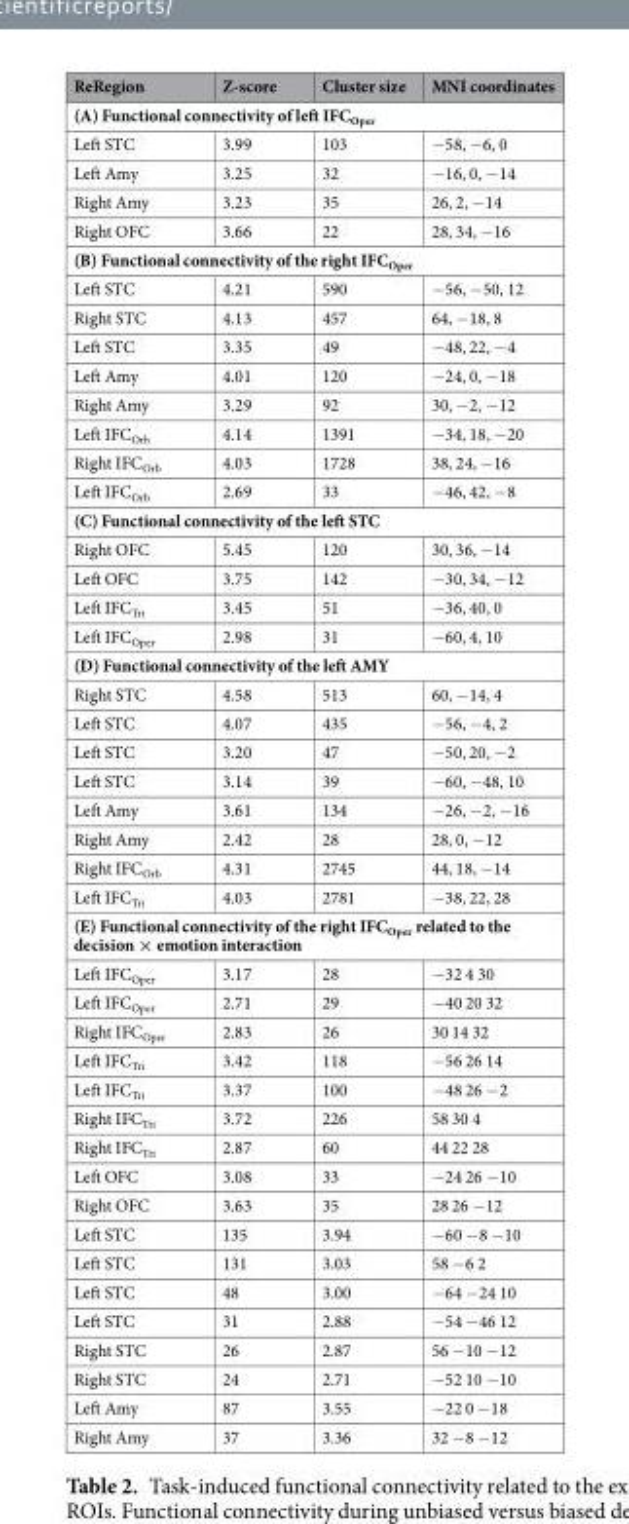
<table><thead><tr><td>ReRegion</td><td>Z-score</td><td>Cluster size</td><td>MNI coordinates</td></tr></thead><tbody><tr><td colspan="4">(A) Functional connectivity of left IFC<sub>Oper</sub></td></tr><tr><td>Left STC</td><td>3.99</td><td>103</td><td>−58, −6, 0</td></tr><tr><td>Left Amy</td><td>3.25</td><td>32</td><td>−16, 0, −14</td></tr><tr><td>Right Amy</td><td>3.23</td><td>35</td><td>26, 2, −14</td></tr><tr><td>Right OFC</td><td>3.66</td><td>22</td><td>28, 34, −16</td></tr><tr><td colspan="4">(B) Functional connectivity of the right IFC<sub>Oper</sub></td></tr><tr><td>Left STC</td><td>4.21</td><td>590</td><td>−56, −50, 12</td></tr><tr><td>Right STC</td><td>4.13</td><td>457</td><td>64, −18, 8</td></tr><tr><td>Left STC</td><td>3.35</td><td>49</td><td>−48, 22, −4</td></tr><tr><td>Left Amy</td><td>4.01</td><td>120</td><td>−24, 0, −18</td></tr><tr><td>Right Amy</td><td>3.29</td><td>92</td><td>30, −2, −12</td></tr><tr><td>Left IFC<sub>Orb</sub></td><td>4.14</td><td>1391</td><td>−34, 18, −20</td></tr><tr><td>Right IFC<sub>Orb</sub></td><td>4.03</td><td>1728</td><td>38, 24, −16</td></tr><tr><td>Left IFC<sub>Orb</sub></td><td>2.69</td><td>33</td><td>−46, 42, −8</td></tr><tr><td colspan="4">(C) Functional connectivity of the left STC</td></tr><tr><td>Right OFC</td><td>5.45</td><td>120</td><td>30, 36, −14</td></tr><tr><td>Left OFC</td><td>3.75</td><td>142</td><td>−30, 34, −12</td></tr><tr><td>Left IFC<sub>Tri</sub></td><td>3.45</td><td>51</td><td>−36, 40, 0</td></tr><tr><td>Left IFC<sub>Oper</sub></td><td>2.98</td><td>31</td><td>−60, 4, 10</td></tr><tr><td colspan="4">(D) Functional connectivity of the left AMY</td></tr><tr><td>Right STC</td><td>4.58</td><td>513</td><td>60, −14, 4</td></tr><tr><td>Left STC</td><td>4.07</td><td>435</td><td>−56, −4, 2</td></tr><tr><td>Left STC</td><td>3.20</td><td>47</td><td>−50, 20, −2</td></tr><tr><td>Left STC</td><td>3.14</td><td>39</td><td>−60, −48, 10</td></tr><tr><td>Left Amy</td><td>3.61</td><td>134</td><td>−26, −2, −16</td></tr><tr><td>Right Amy</td><td>2.42</td><td>28</td><td>28, 0, −12</td></tr><tr><td>Right IFC<sub>Orb</sub></td><td>4.31</td><td>2745</td><td>44, 18, −14</td></tr><tr><td>Left IFC<sub>Tri</sub></td><td>4.03</td><td>2781</td><td>−38, 22, 28</td></tr><tr><td colspan="4">(E) Functional connectivity of the right IFC<sub>Oper</sub> related to the decision × emotion interaction</td></tr><tr><td>Left IFC<sub>Oper</sub></td><td>3.17</td><td>28</td><td>−32 4 30</td></tr><tr><td>Left IFC<sub>Oper</sub></td><td>2.71</td><td>29</td><td>−40 20 32</td></tr><tr><td>Right IFC<sub>Oper</sub></td><td>2.83</td><td>26</td><td>30 14 32</td></tr><tr><td>Left IFC<sub>Tri</sub></td><td>3.42</td><td>118</td><td>−56 26 14</td></tr><tr><td>Left IFC<sub>Tri</sub></td><td>3.37</td><td>100</td><td>−48 26 −2</td></tr><tr><td>Right IFC<sub>Tri</sub></td><td>3.72</td><td>226</td><td>58 30 4</td></tr><tr><td>Right IFC<sub>Tri</sub></td><td>2.87</td><td>60</td><td>44 22 28</td></tr><tr><td>Left OFC</td><td>3.08</td><td>33</td><td>−24 26 −10</td></tr><tr><td>Right OFC</td><td>3.63</td><td>35</td><td>28 26 −12</td></tr><tr><td>Left STC</td><td>135</td><td>3.94</td><td>−60 −8 −10</td></tr><tr><td>Left STC</td><td>131</td><td>3.03</td><td>58 −6 2</td></tr><tr><td>Left STC</td><td>48</td><td>3.00</td><td>−64 −24 10</td></tr><tr><td>Left STC</td><td>31</td><td>2.88</td><td>−54 −46 12</td></tr><tr><td>Right STC</td><td>26</td><td>2.87</td><td>56 −10 −12</td></tr><tr><td>Right STC</td><td>24</td><td>2.71</td><td>−52 10 −10</td></tr><tr><td>Left Amy</td><td>87</td><td>3.55</td><td>−22 0 −18</td></tr><tr><td>Right Amy</td><td>37</td><td>3.36</td><td>32 −8 −12</td></tr></tbody></table>